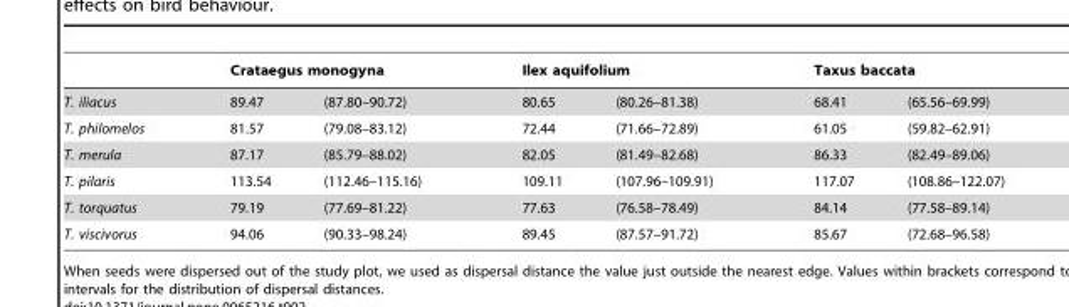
<table><thead><tr><td rowspan="2">T. iliacus</td><td colspan="2">Crataegus monogyna</td><td colspan="2">Ilex aquifolium</td><td colspan="2">Taxus baccata</td></tr><tr><td>89.47</td><td>(87.80–90.72)</td><td>80.65</td><td>(80.26–81.38)</td><td>68.41</td><td>(65.56–69.99)</td></tr></thead><tbody><tr><td>T. philomelos</td><td>81.57</td><td>(79.08–83.12)</td><td>72.44</td><td>(71.66–72.89)</td><td>61.05</td><td>(59.82–62.91)</td></tr><tr><td>T. merula</td><td>87.17</td><td>(85.79–88.02)</td><td>82.05</td><td>(81.49–82.68)</td><td>86.33</td><td>(82.49–89.06)</td></tr><tr><td>T. pilaris</td><td>113.54</td><td>(112.46–115.16)</td><td>109.11</td><td>(107.96–109.91)</td><td>117.07</td><td>(108.86–122.07)</td></tr><tr><td>T. torquatus</td><td>79.19</td><td>(77.69–81.22)</td><td>77.63</td><td>(76.58–78.49)</td><td>84.14</td><td>(77.58–89.14)</td></tr><tr><td>T. viscivorus</td><td>94.06</td><td>(90.33–98.24)</td><td>89.45</td><td>(87.57–91.72)</td><td>85.67</td><td>(72.68–96.58)</td></tr></tbody></table>